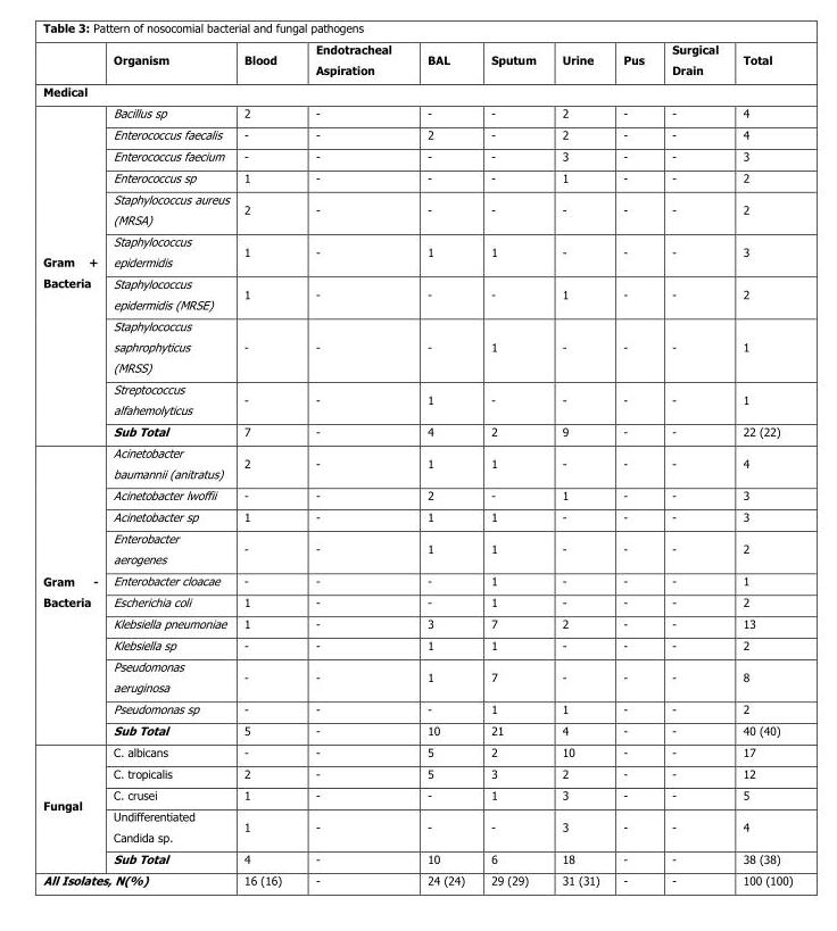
<table><thead><tr><td></td><td>Organism</td><td>Blood</td><td>Endotracheal Aspiration</td><td>BAL</td><td>Sputum</td><td>Urine</td><td>Pus</td><td>Surgical Drain</td><td>Total</td></tr></thead><tbody><tr><td colspan="10">Medical</td></tr><tr><td rowspan="10">Gram + Bacteria</td><td>Bacillus sp</td><td>2</td><td>-</td><td>-</td><td>-</td><td>2</td><td>-</td><td>-</td><td>4</td></tr><tr><td>Enterococcus faecalis</td><td>-</td><td>-</td><td>2</td><td>-</td><td>2</td><td>-</td><td>-</td><td>4</td></tr><tr><td>Enterococcus faecium</td><td>-</td><td>-</td><td>-</td><td>-</td><td>3</td><td>-</td><td>-</td><td>3</td></tr><tr><td>Enterococcus sp</td><td>1</td><td>-</td><td>-</td><td>-</td><td>1</td><td>-</td><td>-</td><td>2</td></tr><tr><td>Staphylococcus aureus (MRSA)</td><td>2</td><td>-</td><td>-</td><td>-</td><td>-</td><td>-</td><td>-</td><td>2</td></tr><tr><td>Staphylococcus epidermidis</td><td>1</td><td>-</td><td>1</td><td>1</td><td>-</td><td>-</td><td>-</td><td>3</td></tr><tr><td>Staphylococcus epidermidis (MRSE)</td><td>1</td><td>-</td><td>-</td><td>-</td><td>1</td><td>-</td><td>-</td><td>2</td></tr><tr><td>Staphylococcus saphrophyticus (MRSS)</td><td>-</td><td>-</td><td>-</td><td>1</td><td>-</td><td>-</td><td>-</td><td>1</td></tr><tr><td>Streptococcus alfahemolyticus</td><td>-</td><td>-</td><td>1</td><td>-</td><td>-</td><td>-</td><td>-</td><td>1</td></tr><tr><td>Sub Total</td><td>7</td><td>-</td><td>4</td><td>2</td><td>9</td><td>-</td><td>-</td><td>22 (22)</td></tr><tr><td rowspan="11">Gram - Bacteria</td><td>Acinetobacter baumannii (anitratus)</td><td>2</td><td>-</td><td>1</td><td>1</td><td>-</td><td>-</td><td>-</td><td>4</td></tr><tr><td>Acinetobacter lwoffii</td><td>-</td><td>-</td><td>2</td><td>-</td><td>1</td><td>-</td><td>-</td><td>3</td></tr><tr><td>Acinetobacter sp</td><td>1</td><td>-</td><td>1</td><td>1</td><td>-</td><td>-</td><td>-</td><td>3</td></tr><tr><td>Enterobacter aerogenes</td><td>-</td><td>-</td><td>1</td><td>1</td><td>-</td><td>-</td><td>-</td><td>2</td></tr><tr><td>Enterobacter cloacae</td><td>-</td><td>-</td><td>-</td><td>1</td><td>-</td><td>-</td><td>-</td><td>1</td></tr><tr><td>Escherichia coli</td><td>1</td><td>-</td><td>-</td><td>1</td><td>-</td><td>-</td><td>-</td><td>2</td></tr><tr><td>Klebsiella pneumoniae</td><td>1</td><td>-</td><td>3</td><td>7</td><td>2</td><td>-</td><td>-</td><td>13</td></tr><tr><td>Klebsiella sp</td><td>-</td><td>-</td><td>1</td><td>1</td><td>-</td><td>-</td><td>-</td><td>2</td></tr><tr><td>Pseudomonas aeruginosa</td><td>-</td><td>-</td><td>1</td><td>7</td><td>-</td><td>-</td><td>-</td><td>8</td></tr><tr><td>Pseudomonas sp</td><td>-</td><td>-</td><td>-</td><td>1</td><td>1</td><td>-</td><td>-</td><td>2</td></tr><tr><td>Sub Total</td><td>5</td><td>-</td><td>10</td><td>21</td><td>4</td><td>-</td><td>-</td><td>40 (40)</td></tr><tr><td rowspan="5">Fungal</td><td>C. albicans</td><td>-</td><td>-</td><td>5</td><td>2</td><td>10</td><td>-</td><td>-</td><td>17</td></tr><tr><td>C. tropicalis</td><td>2</td><td>-</td><td>5</td><td>3</td><td>2</td><td>-</td><td>-</td><td>12</td></tr><tr><td>C. crusei</td><td>1</td><td>-</td><td>-</td><td>1</td><td>3</td><td>-</td><td>-</td><td>5</td></tr><tr><td>Undifferentiated Candida sp.</td><td>1</td><td>-</td><td>-</td><td>-</td><td>3</td><td>-</td><td>-</td><td>4</td></tr><tr><td>Sub Total</td><td>4</td><td>-</td><td>10</td><td>6</td><td>18</td><td>-</td><td>-</td><td>38 (38)</td></tr><tr><td colspan="2">All Isolates, N(%)</td><td>16 (16)</td><td>-</td><td>24 (24)</td><td>29 (29)</td><td>31 (31)</td><td>-</td><td>-</td><td>100 (100)</td></tr></tbody></table>